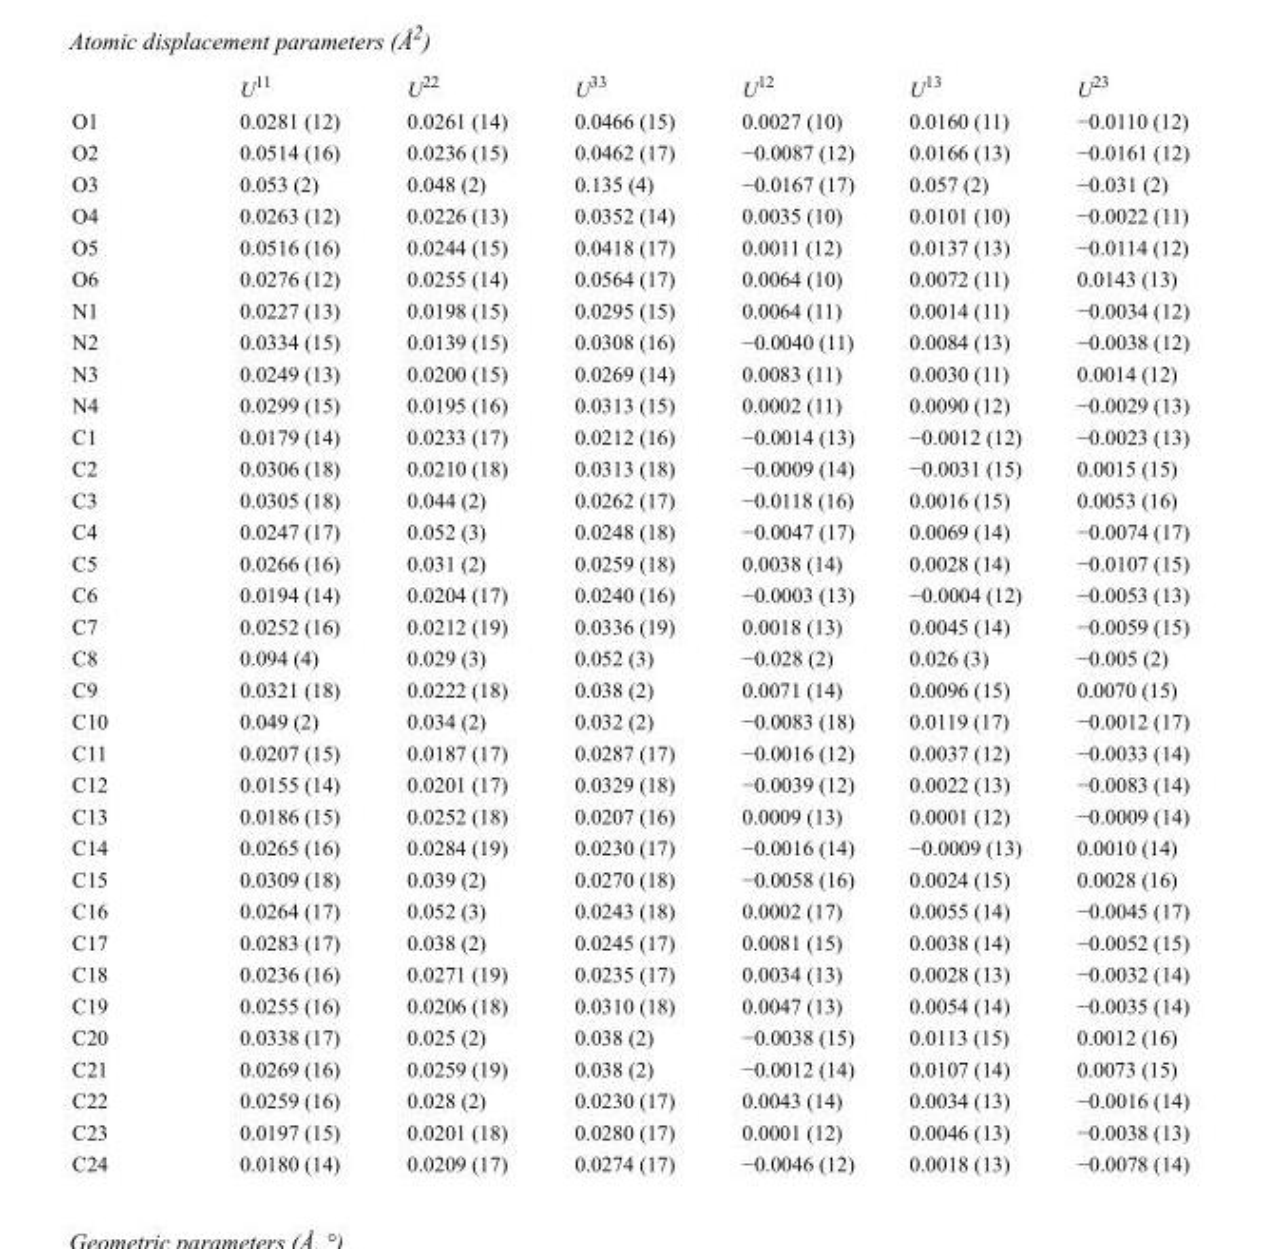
<table><thead><tr><td></td><td>U<sup>11</sup></td><td>U<sup>22</sup></td><td>U<sup>33</sup></td><td>U<sup>12</sup></td><td>U<sup>13</sup></td><td>U<sup>23</sup></td></tr></thead><tbody><tr><td>O1</td><td>0.0281 (12)</td><td>0.0261 (14)</td><td>0.0466 (15)</td><td>0.0027 (10)</td><td>0.0160 (11)</td><td>−0.0110 (12)</td></tr><tr><td>O2</td><td>0.0514 (16)</td><td>0.0236 (15)</td><td>0.0462 (17)</td><td>−0.0087 (12)</td><td>0.0166 (13)</td><td>−0.0161 (12)</td></tr><tr><td>O3</td><td>0.053 (2)</td><td>0.048 (2)</td><td>0.135 (4)</td><td>−0.0167 (17)</td><td>0.057 (2)</td><td>−0.031 (2)</td></tr><tr><td>O4</td><td>0.0263 (12)</td><td>0.0226 (13)</td><td>0.0352 (14)</td><td>0.0035 (10)</td><td>0.0101 (10)</td><td>−0.0022 (11)</td></tr><tr><td>O5</td><td>0.0516 (16)</td><td>0.0244 (15)</td><td>0.0418 (17)</td><td>0.0011 (12)</td><td>0.0137 (13)</td><td>−0.0114 (12)</td></tr><tr><td>O6</td><td>0.0276 (12)</td><td>0.0255 (14)</td><td>0.0564 (17)</td><td>0.0064 (10)</td><td>0.0072 (11)</td><td>0.0143 (13)</td></tr><tr><td>N1</td><td>0.0227 (13)</td><td>0.0198 (15)</td><td>0.0295 (15)</td><td>0.0064 (11)</td><td>0.0014 (11)</td><td>−0.0034 (12)</td></tr><tr><td>N2</td><td>0.0334 (15)</td><td>0.0139 (15)</td><td>0.0308 (16)</td><td>−0.0040 (11)</td><td>0.0084 (13)</td><td>−0.0038 (12)</td></tr><tr><td>N3</td><td>0.0249 (13)</td><td>0.0200 (15)</td><td>0.0269 (14)</td><td>0.0083 (11)</td><td>0.0030 (11)</td><td>0.0014 (12)</td></tr><tr><td>N4</td><td>0.0299 (15)</td><td>0.0195 (16)</td><td>0.0313 (15)</td><td>0.0002 (11)</td><td>0.0090 (12)</td><td>−0.0029 (13)</td></tr><tr><td>C1</td><td>0.0179 (14)</td><td>0.0233 (17)</td><td>0.0212 (16)</td><td>−0.0014 (13)</td><td>−0.0012 (12)</td><td>−0.0023 (13)</td></tr><tr><td>C2</td><td>0.0306 (18)</td><td>0.0210 (18)</td><td>0.0313 (18)</td><td>−0.0009 (14)</td><td>−0.0031 (15)</td><td>0.0015 (15)</td></tr><tr><td>C3</td><td>0.0305 (18)</td><td>0.044 (2)</td><td>0.0262 (17)</td><td>−0.0118 (16)</td><td>0.0016 (15)</td><td>0.0053 (16)</td></tr><tr><td>C4</td><td>0.0247 (17)</td><td>0.052 (3)</td><td>0.0248 (18)</td><td>−0.0047 (17)</td><td>0.0069 (14)</td><td>−0.0074 (17)</td></tr><tr><td>C5</td><td>0.0266 (16)</td><td>0.031 (2)</td><td>0.0259 (18)</td><td>0.0038 (14)</td><td>0.0028 (14)</td><td>−0.0107 (15)</td></tr><tr><td>C6</td><td>0.0194 (14)</td><td>0.0204 (17)</td><td>0.0240 (16)</td><td>−0.0003 (13)</td><td>−0.0004 (12)</td><td>−0.0053 (13)</td></tr><tr><td>C7</td><td>0.0252 (16)</td><td>0.0212 (19)</td><td>0.0336 (19)</td><td>0.0018 (13)</td><td>0.0045 (14)</td><td>−0.0059 (15)</td></tr><tr><td>C8</td><td>0.094 (4)</td><td>0.029 (3)</td><td>0.052 (3)</td><td>−0.028 (2)</td><td>0.026 (3)</td><td>−0.005 (2)</td></tr><tr><td>C9</td><td>0.0321 (18)</td><td>0.0222 (18)</td><td>0.038 (2)</td><td>0.0071 (14)</td><td>0.0096 (15)</td><td>0.0070 (15)</td></tr><tr><td>C10</td><td>0.049 (2)</td><td>0.034 (2)</td><td>0.032 (2)</td><td>−0.0083 (18)</td><td>0.0119 (17)</td><td>−0.0012 (17)</td></tr><tr><td>C11</td><td>0.0207 (15)</td><td>0.0187 (17)</td><td>0.0287 (17)</td><td>−0.0016 (12)</td><td>0.0037 (12)</td><td>−0.0033 (14)</td></tr><tr><td>C12</td><td>0.0155 (14)</td><td>0.0201 (17)</td><td>0.0329 (18)</td><td>−0.0039 (12)</td><td>0.0022 (13)</td><td>−0.0083 (14)</td></tr><tr><td>C13</td><td>0.0186 (15)</td><td>0.0252 (18)</td><td>0.0207 (16)</td><td>0.0009 (13)</td><td>0.0001 (12)</td><td>−0.0009 (14)</td></tr><tr><td>C14</td><td>0.0265 (16)</td><td>0.0284 (19)</td><td>0.0230 (17)</td><td>−0.0016 (14)</td><td>−0.0009 (13)</td><td>0.0010 (14)</td></tr><tr><td>C15</td><td>0.0309 (18)</td><td>0.039 (2)</td><td>0.0270 (18)</td><td>−0.0058 (16)</td><td>0.0024 (15)</td><td>0.0028 (16)</td></tr><tr><td>C16</td><td>0.0264 (17)</td><td>0.052 (3)</td><td>0.0243 (18)</td><td>0.0002 (17)</td><td>0.0055 (14)</td><td>−0.0045 (17)</td></tr><tr><td>C17</td><td>0.0283 (17)</td><td>0.038 (2)</td><td>0.0245 (17)</td><td>0.0081 (15)</td><td>0.0038 (14)</td><td>−0.0052 (15)</td></tr><tr><td>C18</td><td>0.0236 (16)</td><td>0.0271 (19)</td><td>0.0235 (17)</td><td>0.0034 (13)</td><td>0.0028 (13)</td><td>−0.0032 (14)</td></tr><tr><td>C19</td><td>0.0255 (16)</td><td>0.0206 (18)</td><td>0.0310 (18)</td><td>0.0047 (13)</td><td>0.0054 (14)</td><td>−0.0035 (14)</td></tr><tr><td>C20</td><td>0.0338 (17)</td><td>0.025 (2)</td><td>0.038 (2)</td><td>−0.0038 (15)</td><td>0.0113 (15)</td><td>0.0012 (16)</td></tr><tr><td>C21</td><td>0.0269 (16)</td><td>0.0259 (19)</td><td>0.038 (2)</td><td>−0.0012 (14)</td><td>0.0107 (14)</td><td>0.0073 (15)</td></tr><tr><td>C22</td><td>0.0259 (16)</td><td>0.028 (2)</td><td>0.0230 (17)</td><td>0.0043 (14)</td><td>0.0034 (13)</td><td>−0.0016 (14)</td></tr><tr><td>C23</td><td>0.0197 (15)</td><td>0.0201 (18)</td><td>0.0280 (17)</td><td>0.0001 (12)</td><td>0.0046 (13)</td><td>−0.0038 (13)</td></tr><tr><td>C24</td><td>0.0180 (14)</td><td>0.0209 (17)</td><td>0.0274 (17)</td><td>−0.0046 (12)</td><td>0.0018 (13)</td><td>−0.0078 (14)</td></tr></tbody></table>